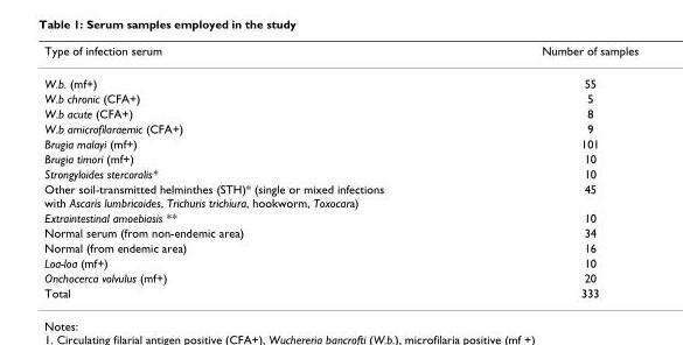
<table><thead><tr><td>Type of infection serum</td><td>Number of samples</td></tr></thead><tbody><tr><td>W.b. (mf+)</td><td>55</td></tr><tr><td>W.b chronic (CFA+)</td><td>5</td></tr><tr><td>W.b acute (CFA+)</td><td>8</td></tr><tr><td>W.b amicrofilaraemic (CFA+)</td><td>9</td></tr><tr><td>Brugia malayi (mf+)</td><td>101</td></tr><tr><td>Brugia timori (mf+)</td><td>10</td></tr><tr><td>Strongyloides stercoralis*</td><td>10</td></tr><tr><td>Other soil-transmitted helminthes (STH)* (single or mixed infections with Ascaris lumbricoides, Trichuris trichiura, hookworm, Toxocara)</td><td>45</td></tr><tr><td>Extraintestinal amoebiasis **</td><td>10</td></tr><tr><td>Normal serum (from non-endemic area)</td><td>34</td></tr><tr><td>Normal (from endemic area)</td><td>16</td></tr><tr><td>Loa-loa (mf+)</td><td>10</td></tr><tr><td>Onchocerca volvulus (mf+)</td><td>20</td></tr><tr><td>Total</td><td>333</td></tr></tbody></table>